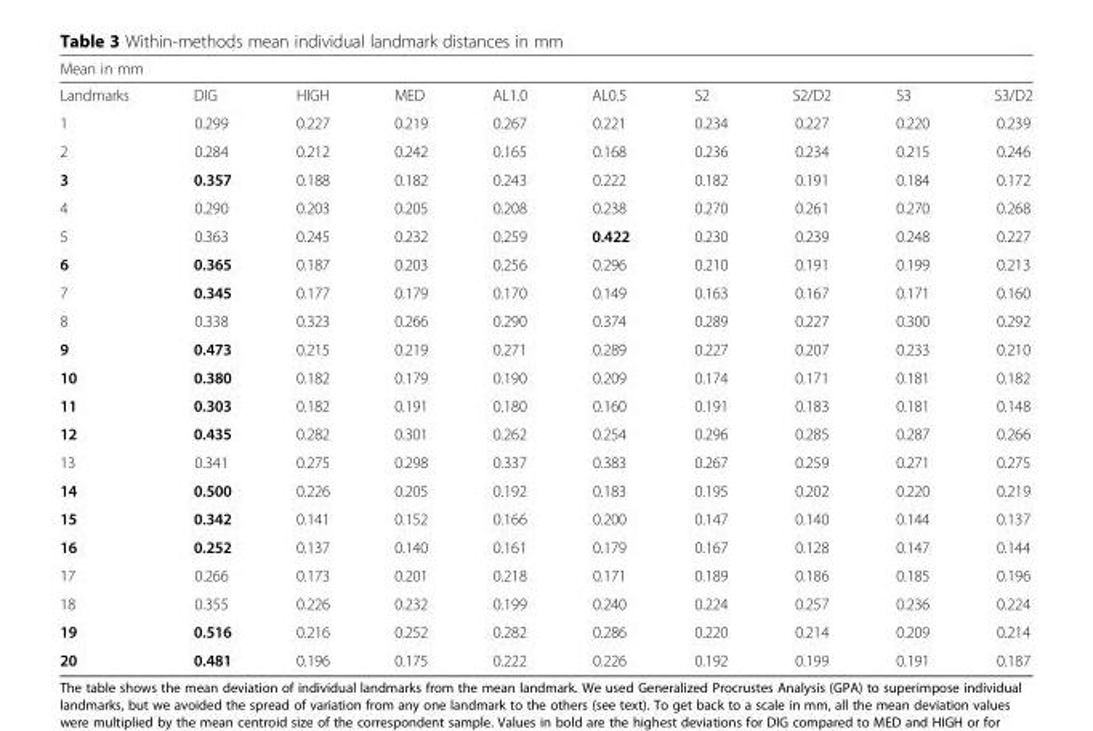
<table><thead><tr><td colspan="10">Mean in mm</td></tr><tr><td>Landmarks</td><td>DIG</td><td>HIGH</td><td>MED</td><td>AL1.0</td><td>AL0.5</td><td>S2</td><td>S2/D2</td><td>S3</td><td>S3/D2</td></tr></thead><tbody><tr><td>1</td><td>0.299</td><td>0.227</td><td>0.219</td><td>0.267</td><td>0.221</td><td>0.234</td><td>0.227</td><td>0.220</td><td>0.239</td></tr><tr><td>2</td><td>0.284</td><td>0.212</td><td>0.242</td><td>0.165</td><td>0.168</td><td>0.236</td><td>0.234</td><td>0.215</td><td>0.246</td></tr><tr><td>3</td><td>0.357</td><td>0.188</td><td>0.182</td><td>0.243</td><td>0.222</td><td>0.182</td><td>0.191</td><td>0.184</td><td>0.172</td></tr><tr><td>4</td><td>0.290</td><td>0.203</td><td>0.205</td><td>0.208</td><td>0.238</td><td>0.270</td><td>0.261</td><td>0.270</td><td>0.268</td></tr><tr><td>5</td><td>0.363</td><td>0.245</td><td>0.232</td><td>0.259</td><td>0.422</td><td>0.230</td><td>0.239</td><td>0.248</td><td>0.227</td></tr><tr><td>6</td><td>0.365</td><td>0.187</td><td>0.203</td><td>0.256</td><td>0.296</td><td>0.210</td><td>0.191</td><td>0.199</td><td>0.213</td></tr><tr><td>7</td><td>0.345</td><td>0.177</td><td>0.179</td><td>0.170</td><td>0.149</td><td>0.163</td><td>0.167</td><td>0.171</td><td>0.160</td></tr><tr><td>8</td><td>0.338</td><td>0.323</td><td>0.266</td><td>0.290</td><td>0.374</td><td>0.289</td><td>0.227</td><td>0.300</td><td>0.292</td></tr><tr><td>9</td><td>0.473</td><td>0.215</td><td>0.219</td><td>0.271</td><td>0.289</td><td>0.227</td><td>0.207</td><td>0.233</td><td>0.210</td></tr><tr><td>10</td><td>0.380</td><td>0.182</td><td>0.179</td><td>0.190</td><td>0.209</td><td>0.174</td><td>0.171</td><td>0.181</td><td>0.182</td></tr><tr><td>11</td><td>0.303</td><td>0.182</td><td>0.191</td><td>0.180</td><td>0.160</td><td>0.191</td><td>0.183</td><td>0.181</td><td>0.148</td></tr><tr><td>12</td><td>0.435</td><td>0.282</td><td>0.301</td><td>0.262</td><td>0.254</td><td>0.296</td><td>0.285</td><td>0.287</td><td>0.266</td></tr><tr><td>13</td><td>0.341</td><td>0.275</td><td>0.298</td><td>0.337</td><td>0.383</td><td>0.267</td><td>0.259</td><td>0.271</td><td>0.275</td></tr><tr><td>14</td><td>0.500</td><td>0.226</td><td>0.205</td><td>0.192</td><td>0.183</td><td>0.195</td><td>0.202</td><td>0.220</td><td>0.219</td></tr><tr><td>15</td><td>0.342</td><td>0.141</td><td>0.152</td><td>0.166</td><td>0.200</td><td>0.147</td><td>0.140</td><td>0.144</td><td>0.137</td></tr><tr><td>16</td><td>0.252</td><td>0.137</td><td>0.140</td><td>0.161</td><td>0.179</td><td>0.167</td><td>0.128</td><td>0.147</td><td>0.144</td></tr><tr><td>17</td><td>0.266</td><td>0.173</td><td>0.201</td><td>0.218</td><td>0.171</td><td>0.189</td><td>0.186</td><td>0.185</td><td>0.196</td></tr><tr><td>18</td><td>0.355</td><td>0.226</td><td>0.232</td><td>0.199</td><td>0.240</td><td>0.224</td><td>0.257</td><td>0.236</td><td>0.224</td></tr><tr><td>19</td><td>0.516</td><td>0.216</td><td>0.252</td><td>0.282</td><td>0.286</td><td>0.220</td><td>0.214</td><td>0.209</td><td>0.214</td></tr><tr><td>20</td><td>0.481</td><td>0.196</td><td>0.175</td><td>0.222</td><td>0.226</td><td>0.192</td><td>0.199</td><td>0.191</td><td>0.187</td></tr></tbody></table>